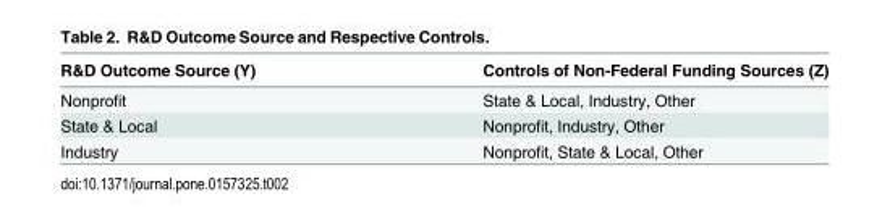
<table><thead><tr><td>R&amp;D Outcome Source (Y)</td><td>Controls of Non-Federal Funding Sources (Z)</td></tr></thead><tbody><tr><td>Nonprofit</td><td>State &amp; Local, Industry, Other</td></tr><tr><td>State &amp; Local</td><td>Nonprofit, Industry, Other</td></tr><tr><td>Industry</td><td>Nonprofit, State &amp; Local, Other</td></tr></tbody></table>